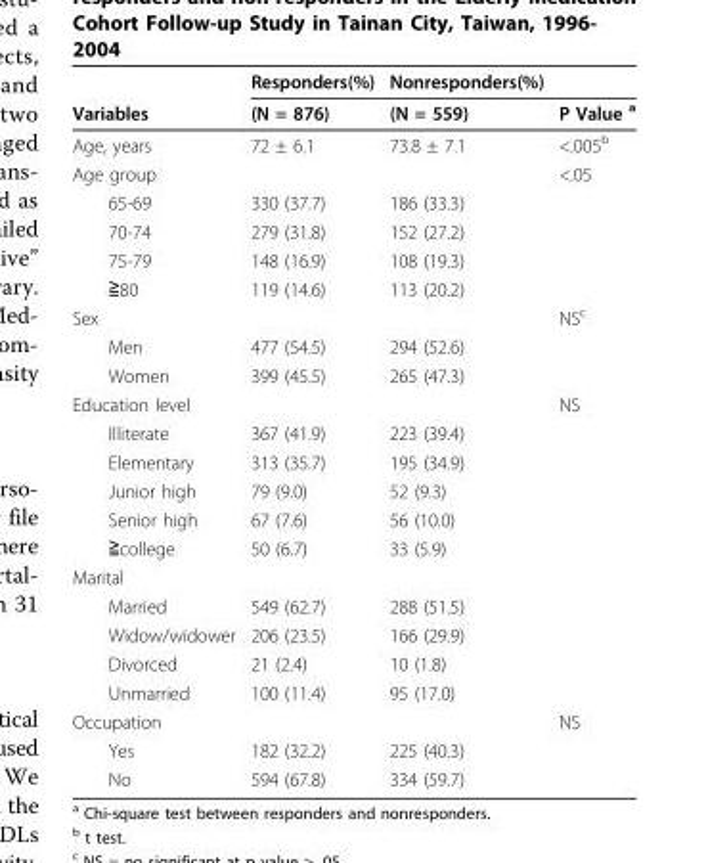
<table><thead><tr><td rowspan="2">Variables</td><td rowspan="2">Responders(%) (N = 876)</td><td rowspan="2">Nonresponders(%) (N = 559)</td><td rowspan="2">P Value <sup>a</sup></td></tr><tr></tr></thead><tbody><tr><td>Age, years</td><td>72 ± 6.1</td><td>73.8 ± 7.1</td><td>&lt;.005<sup>b</sup></td></tr><tr><td>Age group</td><td></td><td></td><td>&lt;.05</td></tr><tr><td>65-69</td><td>330 (37.7)</td><td>186 (33.3)</td><td></td></tr><tr><td>70-74</td><td>279 (31.8)</td><td>152 (27.2)</td><td></td></tr><tr><td>75-79</td><td>148 (16.9)</td><td>108 (19.3)</td><td></td></tr><tr><td>≧80</td><td>119 (14.6)</td><td>113 (20.2)</td><td></td></tr><tr><td>Sex</td><td></td><td></td><td>NS<sup>c</sup></td></tr><tr><td>Men</td><td>477 (54.5)</td><td>294 (52.6)</td><td></td></tr><tr><td>Women</td><td>399 (45.5)</td><td>265 (47.3)</td><td></td></tr><tr><td>Education level</td><td></td><td></td><td>NS</td></tr><tr><td>Illiterate</td><td>367 (41.9)</td><td>223 (39.4)</td><td></td></tr><tr><td>Elementary</td><td>313 (35.7)</td><td>195 (34.9)</td><td></td></tr><tr><td>Junior high</td><td>79 (9.0)</td><td>52 (9.3)</td><td></td></tr><tr><td>Senior high</td><td>67 (7.6)</td><td>56 (10.0)</td><td></td></tr><tr><td>≧college</td><td>50 (6.7)</td><td>33 (5.9)</td><td></td></tr><tr><td colspan="4">Marital</td></tr><tr><td>Married</td><td>549 (62.7)</td><td>288 (51.5)</td><td></td></tr><tr><td>Widow/widower</td><td>206 (23.5)</td><td>166 (29.9)</td><td></td></tr><tr><td>Divorced</td><td>21 (2.4)</td><td>10 (1.8)</td><td></td></tr><tr><td>Unmarried</td><td>100 (11.4)</td><td>95 (17.0)</td><td></td></tr><tr><td>Occupation</td><td></td><td></td><td>NS</td></tr><tr><td>Yes</td><td>182 (32.2)</td><td>225 (40.3)</td><td></td></tr><tr><td>No</td><td>594 (67.8)</td><td>334 (59.7)</td><td></td></tr></tbody></table>